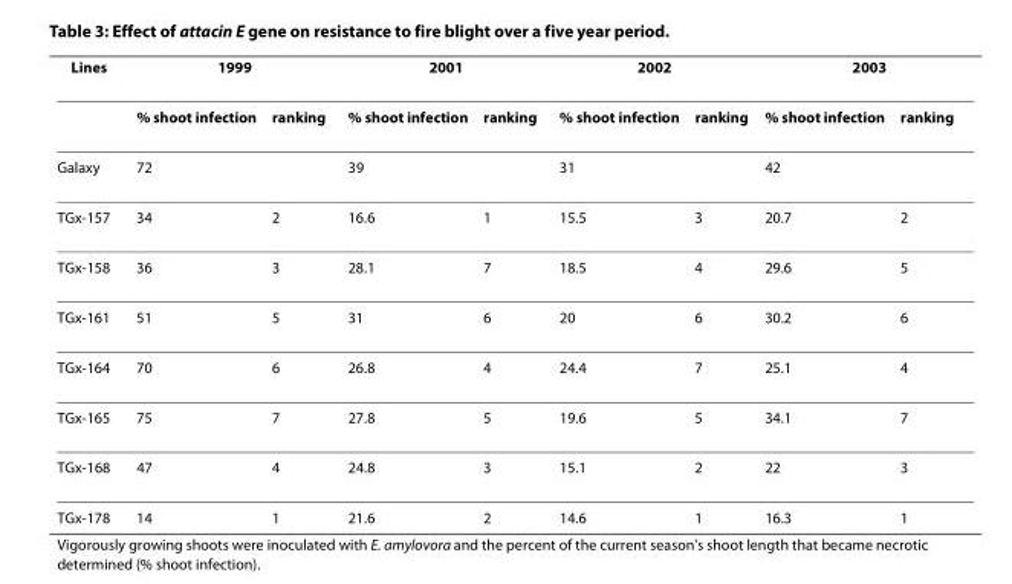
<table><thead><tr><td rowspan="2">Lines</td><td colspan="2">1999</td><td colspan="2">2001</td><td colspan="2">2002</td><td colspan="2">2003</td></tr><tr><td>% shoot infection</td><td>ranking</td><td>% shoot infection</td><td>ranking</td><td>% shoot infection</td><td>ranking</td><td>% shoot infection</td><td>ranking</td></tr></thead><tbody><tr><td>Galaxy</td><td>72</td><td></td><td>39</td><td></td><td>31</td><td></td><td>42</td><td></td></tr><tr><td>TGx-157</td><td>34</td><td>2</td><td>16.6</td><td>1</td><td>15.5</td><td>3</td><td>20.7</td><td>2</td></tr><tr><td>TGx-158</td><td>36</td><td>3</td><td>28.1</td><td>7</td><td>18.5</td><td>4</td><td>29.6</td><td>5</td></tr><tr><td>TGx-161</td><td>51</td><td>5</td><td>31</td><td>6</td><td>20</td><td>6</td><td>30.2</td><td>6</td></tr><tr><td>TGx-164</td><td>70</td><td>6</td><td>26.8</td><td>4</td><td>24.4</td><td>7</td><td>25.1</td><td>4</td></tr><tr><td>TGx-165</td><td>75</td><td>7</td><td>27.8</td><td>5</td><td>19.6</td><td>5</td><td>34.1</td><td>7</td></tr><tr><td>TGx-168</td><td>47</td><td>4</td><td>24.8</td><td>3</td><td>15.1</td><td>2</td><td>22</td><td>3</td></tr><tr><td>TGx-178</td><td>14</td><td>1</td><td>21.6</td><td>2</td><td>14.6</td><td>1</td><td>16.3</td><td>1</td></tr></tbody></table>